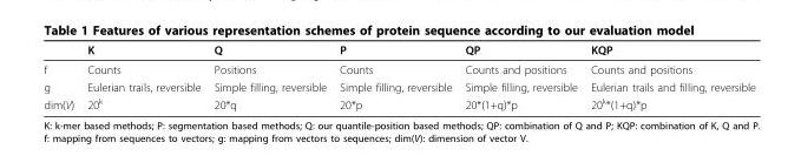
<table><thead><tr><td></td><td>K</td><td>Q</td><td>P</td><td>QP</td><td>KQP</td></tr></thead><tbody><tr><td>f</td><td>Counts</td><td>Positions</td><td>Counts</td><td>Counts and positions</td><td>Counts and positions</td></tr><tr><td>g</td><td>Eulerian trails, reversible</td><td>Simple filling, reversible</td><td>Simple filling, reversible</td><td>Simple filling, reversible</td><td>Eulerian trails and filling, reversible</td></tr><tr><td>dim(V)</td><td>20<sup>k</sup></td><td>20*q</td><td>20*p</td><td>20*(1+q)*p</td><td>20<sup>k</sup>*(1+q)*p</td></tr></tbody></table>